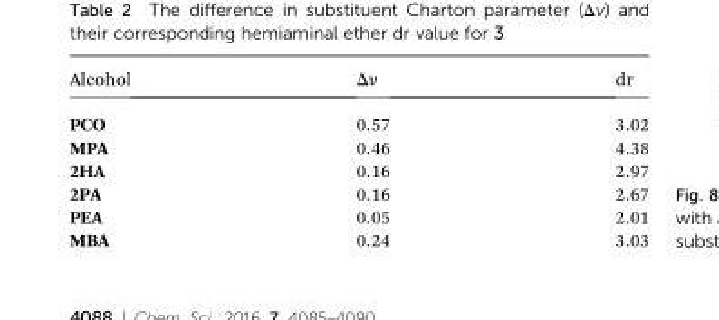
<table><thead><tr><td>Alcohol</td><td>Δv</td><td>dr</td></tr></thead><tbody><tr><td>PCO</td><td>0.57</td><td>3.02</td></tr><tr><td>MPA</td><td>0.46</td><td>4.38</td></tr><tr><td>2HA</td><td>0.16</td><td>2.97</td></tr><tr><td>2PA</td><td>0.16</td><td>2.67</td></tr><tr><td>PEA</td><td>0.05</td><td>2.01</td></tr><tr><td>MBA</td><td>0.24</td><td>3.03</td></tr></tbody></table>